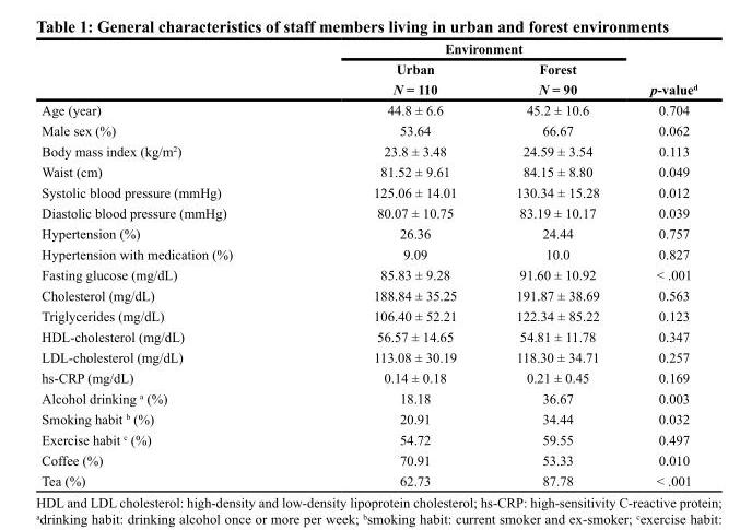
<table><thead><tr><td rowspan="3"></td><td colspan="2">Environment</td><td rowspan="3">p-value<sup>d</sup></td></tr><tr><td rowspan="2">Urban N = 110</td><td rowspan="2">Forest N = 90</td></tr><tr></tr></thead><tbody><tr><td>Age (year)</td><td>44.8 ± 6.6</td><td>45.2 ± 10.6</td><td>0.704</td></tr><tr><td>Male sex (%)</td><td>53.64</td><td>66.67</td><td>0.062</td></tr><tr><td>Body mass index (kg/m<sup>2</sup>)</td><td>23.8 ± 3.48</td><td>24.59 ± 3.54</td><td>0.113</td></tr><tr><td>Waist (cm)</td><td>81.52 ± 9.61</td><td>84.15 ± 8.80</td><td>0.049</td></tr><tr><td>Systolic blood pressure (mmHg)</td><td>125.06 ± 14.01</td><td>130.34 ± 15.28</td><td>0.012</td></tr><tr><td>Diastolic blood pressure (mmHg)</td><td>80.07 ± 10.75</td><td>83.19 ± 10.17</td><td>0.039</td></tr><tr><td>Hypertension (%)</td><td>26.36</td><td>24.44</td><td>0.757</td></tr><tr><td>Hypertension with medication (%)</td><td>9.09</td><td>10.0</td><td>0.827</td></tr><tr><td>Fasting glucose (mg/dL)</td><td>85.83 ± 9.28</td><td>91.60 ± 10.92</td><td>&lt; .001</td></tr><tr><td>Cholesterol (mg/dL)</td><td>188.84 ± 35.25</td><td>191.87 ± 38.69</td><td>0.563</td></tr><tr><td>Triglycerides (mg/dL)</td><td>106.40 ± 52.21</td><td>122.34 ± 85.22</td><td>0.123</td></tr><tr><td>HDL-cholesterol (mg/dL)</td><td>56.57 ± 14.65</td><td>54.81 ± 11.78</td><td>0.347</td></tr><tr><td>LDL-cholesterol (mg/dL)</td><td>113.08 ± 30.19</td><td>118.30 ± 34.71</td><td>0.257</td></tr><tr><td>hs-CRP (mg/dL)</td><td>0.14 ± 0.18</td><td>0.21 ± 0.45</td><td>0.169</td></tr><tr><td>Alcohol drinking <sup>a</sup> (%)</td><td>18.18</td><td>36.67</td><td>0.003</td></tr><tr><td>Smoking habit <sup>b</sup> (%)</td><td>20.91</td><td>34.44</td><td>0.032</td></tr><tr><td>Exercise habit <sup>c</sup> (%)</td><td>54.72</td><td>59.55</td><td>0.497</td></tr><tr><td>Coffee (%)</td><td>70.91</td><td>53.33</td><td>0.010</td></tr><tr><td>Tea (%)</td><td>62.73</td><td>87.78</td><td>&lt; .001</td></tr></tbody></table>